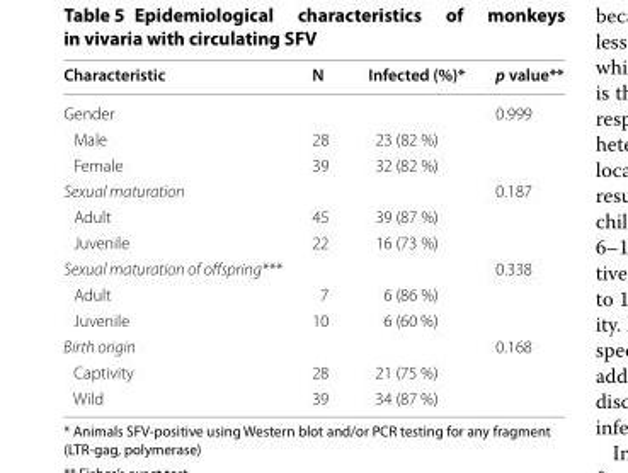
<table><thead><tr><td>Characteristic</td><td>N</td><td>Infected (%)*</td><td>p value**</td></tr></thead><tbody><tr><td>Gender</td><td></td><td></td><td>0.999</td></tr><tr><td>Male</td><td>28</td><td>23 (82 %)</td><td></td></tr><tr><td>Female</td><td>39</td><td>32 (82 %)</td><td></td></tr><tr><td>Sexual maturation</td><td></td><td></td><td>0.187</td></tr><tr><td>Adult</td><td>45</td><td>39 (87 %)</td><td></td></tr><tr><td>Juvenile</td><td>22</td><td>16 (73 %)</td><td></td></tr><tr><td>Sexual maturation of offspring***</td><td></td><td></td><td>0.338</td></tr><tr><td>Adult</td><td>7</td><td>6 (86 %)</td><td></td></tr><tr><td>Juvenile</td><td>10</td><td>6 (60 %)</td><td></td></tr><tr><td>Birth origin</td><td></td><td></td><td>0.168</td></tr><tr><td>Captivity</td><td>28</td><td>21 (75 %)</td><td></td></tr><tr><td>Wild</td><td>39</td><td>34 (87 %)</td><td></td></tr></tbody></table>